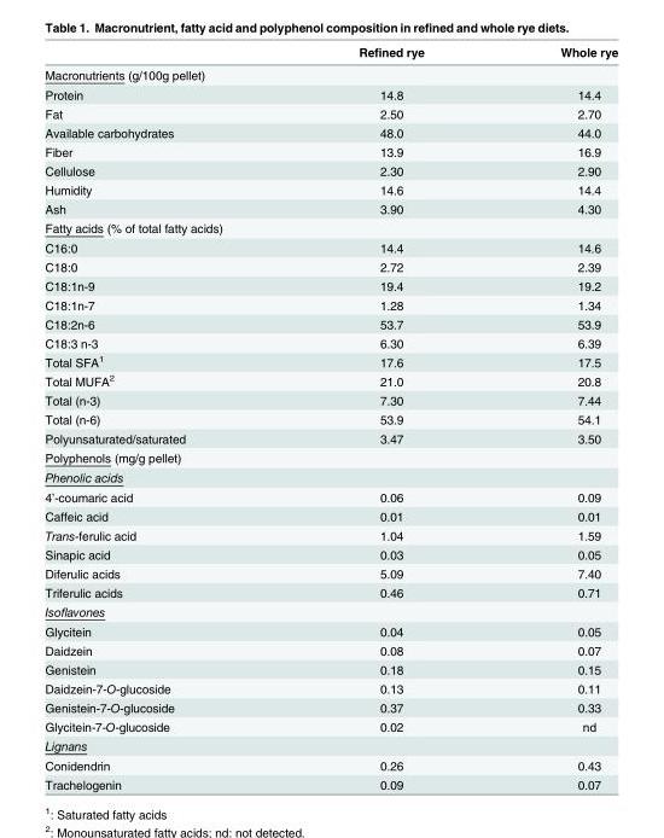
<table><thead><tr><td></td><td>Refined rye</td><td>Whole rye</td></tr></thead><tbody><tr><td colspan="3">Macronutrients (g/100g pellet)</td></tr><tr><td>Protein</td><td>14.8</td><td>14.4</td></tr><tr><td>Fat</td><td>2.50</td><td>2.70</td></tr><tr><td>Available carbohydrates</td><td>48.0</td><td>44.0</td></tr><tr><td>Fiber</td><td>13.9</td><td>16.9</td></tr><tr><td>Cellulose</td><td>2.30</td><td>2.90</td></tr><tr><td>Humidity</td><td>14.6</td><td>14.4</td></tr><tr><td>Ash</td><td>3.90</td><td>4.30</td></tr><tr><td colspan="3">Fatty acids (% of total fatty acids)</td></tr><tr><td>C16:0</td><td>14.4</td><td>14.6</td></tr><tr><td>C18:0</td><td>2.72</td><td>2.39</td></tr><tr><td>C18:1n-9</td><td>19.4</td><td>19.2</td></tr><tr><td>C18:1n-7</td><td>1.28</td><td>1.34</td></tr><tr><td>C18:2n-6</td><td>53.7</td><td>53.9</td></tr><tr><td>C18:3 n-3</td><td>6.30</td><td>6.39</td></tr><tr><td>Total SFA<sup>1</sup></td><td>17.6</td><td>17.5</td></tr><tr><td>Total MUFA<sup>2</sup></td><td>21.0</td><td>20.8</td></tr><tr><td>Total (n-3)</td><td>7.30</td><td>7.44</td></tr><tr><td>Total (n-6)</td><td>53.9</td><td>54.1</td></tr><tr><td>Polyunsaturated/saturated</td><td>3.47</td><td>3.50</td></tr><tr><td colspan="3">Polyphenols (mg/g pellet)</td></tr><tr><td colspan="3">Phenolic acids</td></tr><tr><td>4’-coumaric acid</td><td>0.06</td><td>0.09</td></tr><tr><td>Caffeic acid</td><td>0.01</td><td>0.01</td></tr><tr><td>Trans-ferulic acid</td><td>1.04</td><td>1.59</td></tr><tr><td>Sinapic acid</td><td>0.03</td><td>0.05</td></tr><tr><td>Diferulic acids</td><td>5.09</td><td>7.40</td></tr><tr><td>Triferulic acids</td><td>0.46</td><td>0.71</td></tr><tr><td colspan="3">Isoflavones</td></tr><tr><td>Glycitein</td><td>0.04</td><td>0.05</td></tr><tr><td>Daidzein</td><td>0.08</td><td>0.07</td></tr><tr><td>Genistein</td><td>0.18</td><td>0.15</td></tr><tr><td>Daidzein-7-O-glucoside</td><td>0.13</td><td>0.11</td></tr><tr><td>Genistein-7-O-glucoside</td><td>0.37</td><td>0.33</td></tr><tr><td>Glycitein-7-O-glucoside</td><td>0.02</td><td>nd</td></tr><tr><td colspan="3">Lignans</td></tr><tr><td>Conidendrin</td><td>0.26</td><td>0.43</td></tr><tr><td>Trachelogenin</td><td>0.09</td><td>0.07</td></tr></tbody></table>